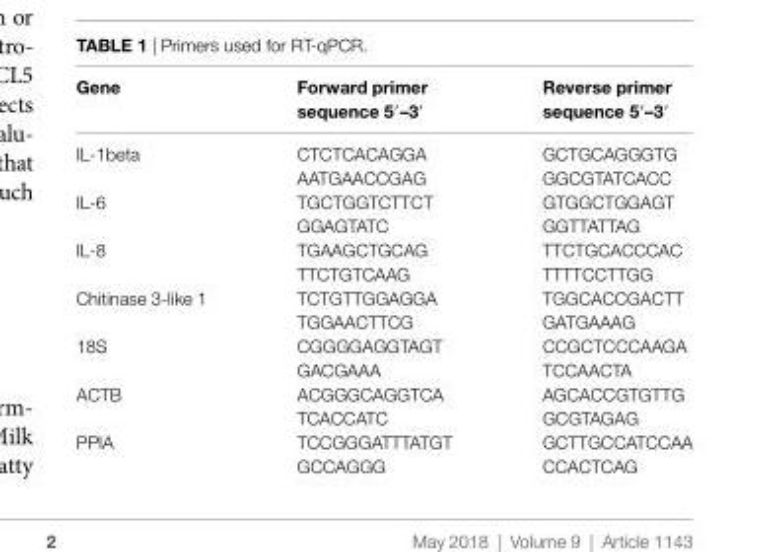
<table><thead><tr><td>gene</td><td>Forward primer sequence 5′–3′</td><td>reverse primer sequence 5′–3′</td></tr></thead><tbody><tr><td>IL-1beta</td><td>CTCTCACAGGA AATGAACCGAG</td><td>GCTGCAGGGTG GGCGTATCACC</td></tr><tr><td>IL-6</td><td>TGCTGGTCTTCT GGAGTATC</td><td>GTGGCTGGAGT GGTTATTAG</td></tr><tr><td>IL-8</td><td>TGAAGCTGCAG TTCTGTCAAG</td><td>TTCTGCACCCAC TTTTCCTTGG</td></tr><tr><td>Chitinase 3-like 1</td><td>TCTGTTGGAGGA TGGAACTTCG</td><td>TGGCACCGACTT GATGAAAG</td></tr><tr><td>18S</td><td>CGGGGAGGTAGT GACGAAA</td><td>CCGCTCCCAAGA TCCAACTA</td></tr><tr><td>ACTB</td><td>ACGGGCAGGTCA TCACCATC</td><td>AGCACCGTGTTG GCGTAGAG</td></tr><tr><td>PPIA</td><td>TCCGGGATTTATGT GCCAGGG</td><td>GCTTGCCATCCAA CCACTCAG</td></tr></tbody></table>